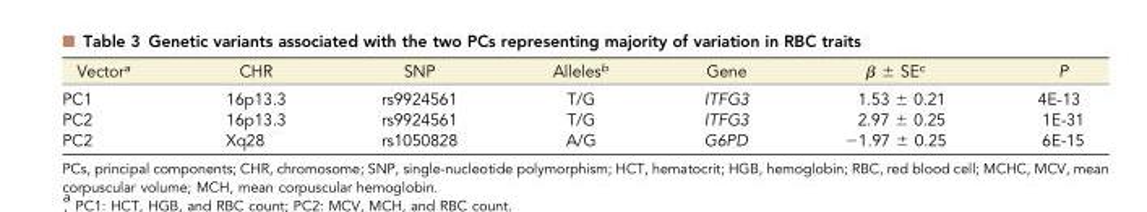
<table><thead><tr><td>Vector<sup>a</sup></td><td>CHR</td><td>SNP</td><td>Alleles<sup>b</sup></td><td>Gene</td><td>β ± SE<sup>c</sup></td><td>P</td></tr></thead><tbody><tr><td>PC1</td><td>16p13.3</td><td>rs9924561</td><td>T/G</td><td>ITFG3</td><td>1.53 ± 0.21</td><td>4E-13</td></tr><tr><td>PC2</td><td>16p13.3</td><td>rs9924561</td><td>T/G</td><td>ITFG3</td><td>2.97 ± 0.25</td><td>1E-31</td></tr><tr><td>PC2</td><td>Xq28</td><td>rs1050828</td><td>A/G</td><td>G6PD</td><td>−1.97 ± 0.25</td><td>6E-15</td></tr></tbody></table>